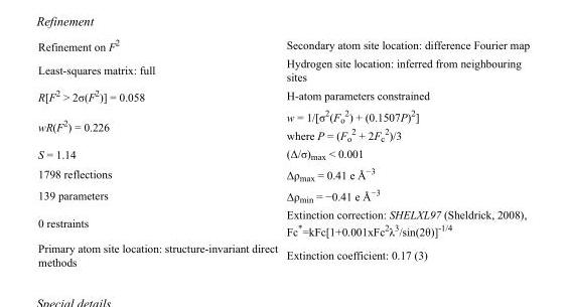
<table><tbody><tr><td>Refinement on F<sup>2</sup></td><td>Secondary atom site location: difference Fourier map</td></tr><tr><td>Least-squares matrix: full</td><td>Hydrogen site location: inferred from neighbouring sites</td></tr><tr><td>R[F<sup>2</sup> &gt; 2σ(F<sup>2</sup>)] = 0.058</td><td>H-atom parameters constrained</td></tr><tr><td>wR(F<sup>2</sup>) = 0.226</td><td>w = 1/[σ<sup>2</sup>(F<sub>o</sub> <sup>2</sup>) + (0.1507P)<sup>2</sup>] where P = (F<sub>o</sub> <sup>2</sup> + 2F<sub>c</sub> <sup>2</sup>)/3</td></tr><tr><td>S = 1.14</td><td>(Δ/σ)<sub>max</sub> &lt; 0.001</td></tr><tr><td>1798 reflections</td><td>Δρ<sub>max</sub> = 0.41 e Å<sup>−3</sup></td></tr><tr><td>139 parameters</td><td>Δρ<sub>min</sub> = −0.41 e Å<sup>−3</sup></td></tr><tr><td>0 restraints</td><td>Extinction correction: SHELXL97 (Sheldrick, 2008), Fc*=kFc[1+0.001xFc<sup>2</sup>λ<sup>3</sup>/sin(2θ)]<sup>-1/4</sup></td></tr><tr><td>Primary atom site location: structure-invariant direct methods</td><td>Extinction coefficient: 0.17 (3)</td></tr></tbody></table>